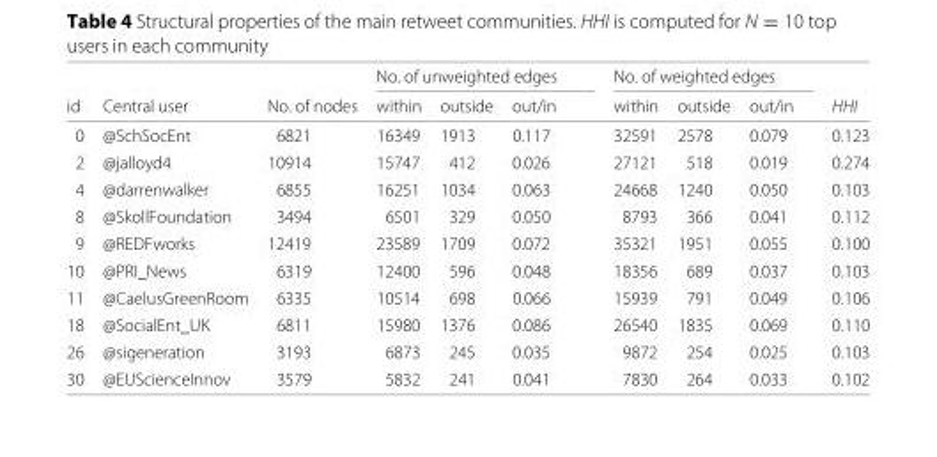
<table><thead><tr><td rowspan="2">id</td><td rowspan="2">Central user</td><td rowspan="2">No. of nodes</td><td colspan="3">No. of unweighted edges</td><td colspan="3">No. of weighted edges</td><td rowspan="2">HHI</td></tr><tr><td>within</td><td>outside</td><td>out/in</td><td>within</td><td>outside</td><td>out/in</td></tr></thead><tbody><tr><td>0</td><td>@SchSocEnt</td><td>6821</td><td>16349</td><td>1913</td><td>0.117</td><td>32591</td><td>2578</td><td>0.079</td><td>0.123</td></tr><tr><td>2</td><td>@jalloyd4</td><td>10914</td><td>15747</td><td>412</td><td>0.026</td><td>27121</td><td>518</td><td>0.019</td><td>0.274</td></tr><tr><td>4</td><td>@darrenwalker</td><td>6855</td><td>16251</td><td>1034</td><td>0.063</td><td>24668</td><td>1240</td><td>0.050</td><td>0.103</td></tr><tr><td>8</td><td>@SkollFoundation</td><td>3494</td><td>6501</td><td>329</td><td>0.050</td><td>8793</td><td>366</td><td>0.041</td><td>0.112</td></tr><tr><td>9</td><td>@REDFworks</td><td>12419</td><td>23589</td><td>1709</td><td>0.072</td><td>35321</td><td>1951</td><td>0.055</td><td>0.100</td></tr><tr><td>10</td><td>@PRI_News</td><td>6319</td><td>12400</td><td>596</td><td>0.048</td><td>18356</td><td>689</td><td>0.037</td><td>0.103</td></tr><tr><td>11</td><td>@CaelusGreenRoom</td><td>6335</td><td>10514</td><td>698</td><td>0.066</td><td>15939</td><td>791</td><td>0.049</td><td>0.106</td></tr><tr><td>18</td><td>@SocialEnt_UK</td><td>6811</td><td>15980</td><td>1376</td><td>0.086</td><td>26540</td><td>1835</td><td>0.069</td><td>0.110</td></tr><tr><td>26</td><td>@sigeneration</td><td>3193</td><td>6873</td><td>245</td><td>0.035</td><td>9872</td><td>254</td><td>0.025</td><td>0.103</td></tr><tr><td>30</td><td>@EUScienceInnov</td><td>3579</td><td>5832</td><td>241</td><td>0.041</td><td>7830</td><td>264</td><td>0.033</td><td>0.102</td></tr></tbody></table>